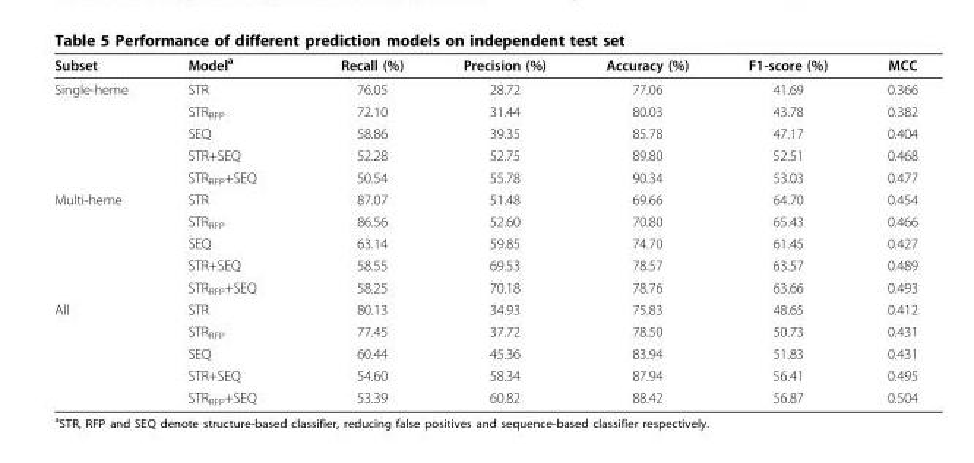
<table><thead><tr><td>Subset</td><td>Model<sup>a</sup></td><td>Recall (%)</td><td>Precision (%)</td><td>Accuracy (%)</td><td>F1-score (%)</td><td>MCC</td></tr></thead><tbody><tr><td rowspan="5">Single-heme</td><td>STR</td><td>76.05</td><td>28.72</td><td>77.06</td><td>41.69</td><td>0.366</td></tr><tr><td>STR<sub>RFP</sub></td><td>72.10</td><td>31.44</td><td>80.03</td><td>43.78</td><td>0.382</td></tr><tr><td>SEQ</td><td>58.86</td><td>39.35</td><td>85.78</td><td>47.17</td><td>0.404</td></tr><tr><td>STR+SEQ</td><td>52.28</td><td>52.75</td><td>89.80</td><td>52.51</td><td>0.468</td></tr><tr><td>STR<sub>RFP</sub>+SEQ</td><td>50.54</td><td>55.78</td><td>90.34</td><td>53.03</td><td>0.477</td></tr><tr><td rowspan="5">Multi-heme</td><td>STR</td><td>87.07</td><td>51.48</td><td>69.66</td><td>64.70</td><td>0.454</td></tr><tr><td>STR<sub>RFP</sub></td><td>86.56</td><td>52.60</td><td>70.80</td><td>65.43</td><td>0.466</td></tr><tr><td>SEQ</td><td>63.14</td><td>59.85</td><td>74.70</td><td>61.45</td><td>0.427</td></tr><tr><td>STR+SEQ</td><td>58.55</td><td>69.53</td><td>78.57</td><td>63.57</td><td>0.489</td></tr><tr><td>STR<sub>RFP</sub>+SEQ</td><td>58.25</td><td>70.18</td><td>78.76</td><td>63.66</td><td>0.493</td></tr><tr><td rowspan="5">All</td><td>STR</td><td>80.13</td><td>34.93</td><td>75.83</td><td>48.65</td><td>0.412</td></tr><tr><td>STR<sub>RFP</sub></td><td>77.45</td><td>37.72</td><td>78.50</td><td>50.73</td><td>0.431</td></tr><tr><td>SEQ</td><td>60.44</td><td>45.36</td><td>83.94</td><td>51.83</td><td>0.431</td></tr><tr><td>STR+SEQ</td><td>54.60</td><td>58.34</td><td>87.94</td><td>56.41</td><td>0.495</td></tr><tr><td>STR<sub>RFP</sub>+SEQ</td><td>53.39</td><td>60.82</td><td>88.42</td><td>56.87</td><td>0.504</td></tr></tbody></table>